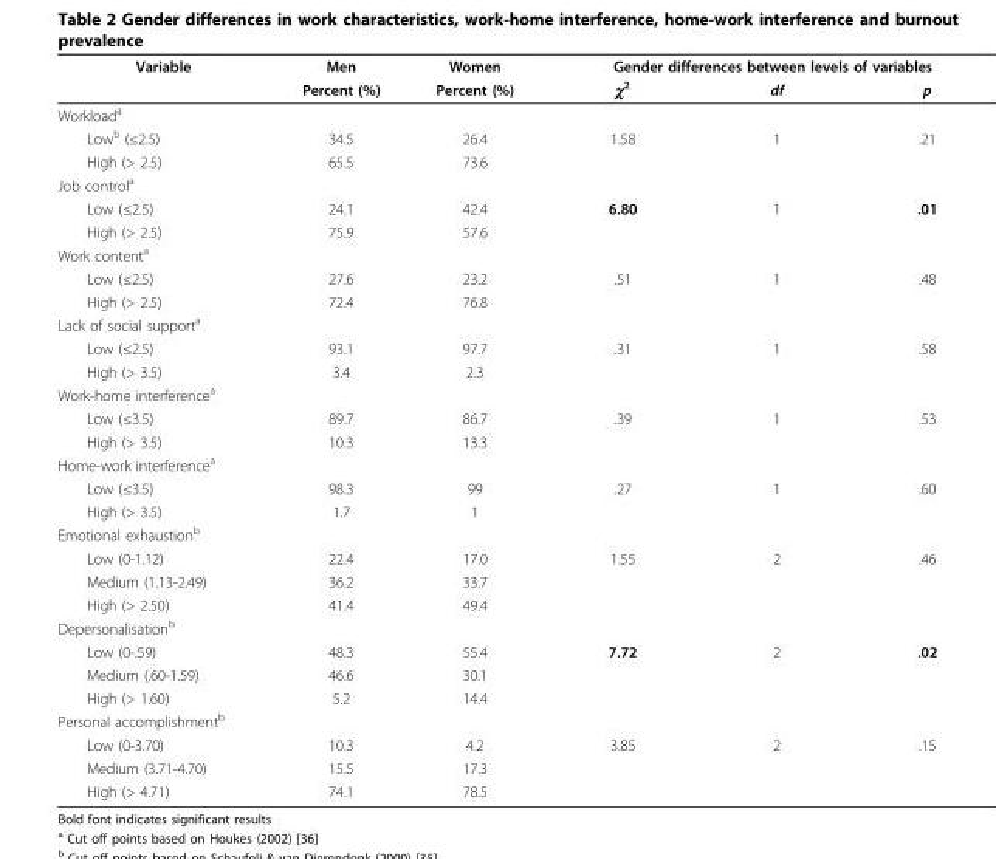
<table><thead><tr><td rowspan="2">Variable</td><td rowspan="2">Men Percent (%)</td><td rowspan="2">Women Percent (%)</td><td colspan="3">Gender differences between levels of variables</td></tr><tr><td>χ<sup>2</sup></td><td>df</td><td>p</td></tr></thead><tbody><tr><td colspan="6">Workload<sup>a</sup></td></tr><tr><td>Low<sup>b</sup> (≤2.5)</td><td>34.5</td><td>26.4</td><td>1.58</td><td>1</td><td>.21</td></tr><tr><td>High (&gt; 2.5)</td><td>65.5</td><td>73.6</td><td></td><td></td><td></td></tr><tr><td colspan="6">Job control<sup>a</sup></td></tr><tr><td>Low (≤2.5)</td><td>24.1</td><td>42.4</td><td>6.80</td><td>1</td><td>.01</td></tr><tr><td>High (&gt; 2.5)</td><td>75.9</td><td>57.6</td><td></td><td></td><td></td></tr><tr><td colspan="6">Work content<sup>a</sup></td></tr><tr><td>Low (≤2.5)</td><td>27.6</td><td>23.2</td><td>.51</td><td>1</td><td>.48</td></tr><tr><td>High (&gt; 2.5)</td><td>72.4</td><td>76.8</td><td></td><td></td><td></td></tr><tr><td colspan="6">Lack of social support<sup>a</sup></td></tr><tr><td>Low (≤2.5)</td><td>93.1</td><td>97.7</td><td>.31</td><td>1</td><td>.58</td></tr><tr><td>High (&gt; 3.5)</td><td>3.4</td><td>2.3</td><td></td><td></td><td></td></tr><tr><td colspan="6">Work-home interference<sup>a</sup></td></tr><tr><td>Low (≤3.5)</td><td>89.7</td><td>86.7</td><td>.39</td><td>1</td><td>.53</td></tr><tr><td>High (&gt; 3.5)</td><td>10.3</td><td>13.3</td><td></td><td></td><td></td></tr><tr><td colspan="6">Home-work interference<sup>a</sup></td></tr><tr><td>Low (≤3.5)</td><td>98.3</td><td>99</td><td>.27</td><td>1</td><td>.60</td></tr><tr><td>High (&gt; 3.5)</td><td>1.7</td><td>1</td><td></td><td></td><td></td></tr><tr><td colspan="6">Emotional exhaustion<sup>b</sup></td></tr><tr><td>Low (0-1.12)</td><td>22.4</td><td>17.0</td><td>1.55</td><td>2</td><td>.46</td></tr><tr><td>Medium (1.13-2.49)</td><td>36.2</td><td>33.7</td><td></td><td></td><td></td></tr><tr><td>High (&gt; 2.50)</td><td>41.4</td><td>49.4</td><td></td><td></td><td></td></tr><tr><td colspan="6">Depersonalisation<sup>b</sup></td></tr><tr><td>Low (0-.59)</td><td>48.3</td><td>55.4</td><td>7.72</td><td>2</td><td>.02</td></tr><tr><td>Medium (.60-1.59)</td><td>46.6</td><td>30.1</td><td></td><td></td><td></td></tr><tr><td>High (&gt; 1.60)</td><td>5.2</td><td>14.4</td><td></td><td></td><td></td></tr><tr><td colspan="6">Personal accomplishment<sup>b</sup></td></tr><tr><td>Low (0-3.70)</td><td>10.3</td><td>4.2</td><td>3.85</td><td>2</td><td>.15</td></tr><tr><td>Medium (3.71-4.70)</td><td>15.5</td><td>17.3</td><td></td><td></td><td></td></tr><tr><td>High (&gt; 4.71)</td><td>74.1</td><td>78.5</td><td></td><td></td><td></td></tr></tbody></table>